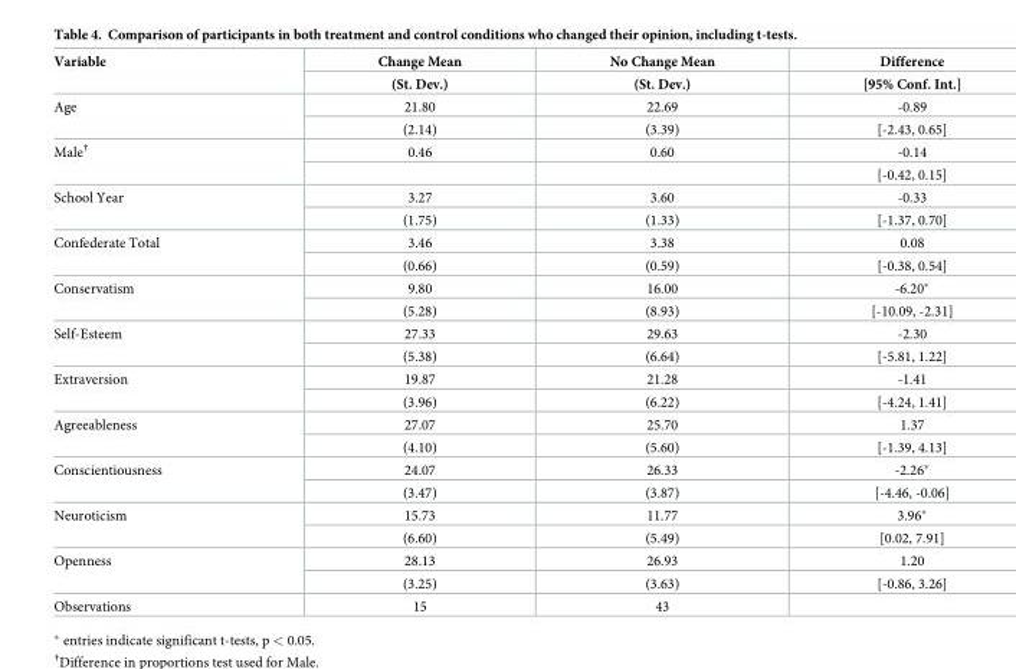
<table><thead><tr><td rowspan="2">Variable</td><td rowspan="2">Change Mean (St. Dev.)</td><td rowspan="2">No Change Mean (St. Dev.)</td><td rowspan="2">Difference [95% Conf. Int.]</td></tr><tr></tr></thead><tbody><tr><td rowspan="2">Age</td><td>21.80</td><td>22.69</td><td>-0.89</td></tr><tr><td>(2.14)</td><td>(3.39)</td><td>[-2.43, 0.65]</td></tr><tr><td rowspan="2">Male<sup>†</sup></td><td>0.46</td><td>0.60</td><td>-0.14</td></tr><tr><td></td><td></td><td>[-0.42, 0.15]</td></tr><tr><td rowspan="2">School Year</td><td>3.27</td><td>3.60</td><td>-0.33</td></tr><tr><td>(1.75)</td><td>(1.33)</td><td>[-1.37, 0.70]</td></tr><tr><td rowspan="2">Confederate Total</td><td>3.46</td><td>3.38</td><td>0.08</td></tr><tr><td>(0.66)</td><td>(0.59)</td><td>[-0.38, 0.54]</td></tr><tr><td rowspan="2">Conservatism</td><td>9.80</td><td>16.00</td><td>-6.20*</td></tr><tr><td>(5.28)</td><td>(8.93)</td><td>[-10.09, -2.31]</td></tr><tr><td rowspan="2">Self-Esteem</td><td>27.33</td><td>29.63</td><td>-2.30</td></tr><tr><td>(5.38)</td><td>(6.64)</td><td>[-5.81, 1.22]</td></tr><tr><td rowspan="2">Extraversion</td><td>19.87</td><td>21.28</td><td>-1.41</td></tr><tr><td>(3.96)</td><td>(6.22)</td><td>[-4.24, 1.41]</td></tr><tr><td rowspan="2">Agreeableness</td><td>27.07</td><td>25.70</td><td>1.37</td></tr><tr><td>(4.10)</td><td>(5.60)</td><td>[-1.39, 4.13]</td></tr><tr><td rowspan="2">Conscientiousness</td><td>24.07</td><td>26.33</td><td>-2.26*</td></tr><tr><td>(3.47)</td><td>(3.87)</td><td>[-4.46, -0.06]</td></tr><tr><td rowspan="2">Neuroticism</td><td>15.73</td><td>11.77</td><td>3.96*</td></tr><tr><td>(6.60)</td><td>(5.49)</td><td>[0.02, 7.91]</td></tr><tr><td rowspan="2">Openness</td><td>28.13</td><td>26.93</td><td>1.20</td></tr><tr><td>(3.25)</td><td>(3.63)</td><td>[-0.86, 3.26]</td></tr><tr><td>Observations</td><td>15</td><td>43</td><td></td></tr></tbody></table>